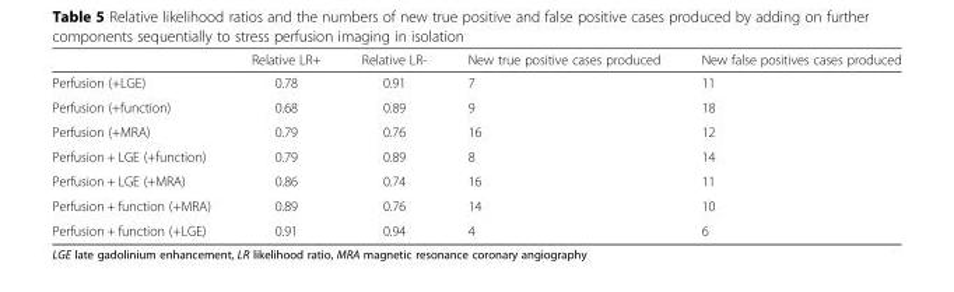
<table><thead><tr><td></td><td>Relative LR+</td><td>Relative LR-</td><td>New true positive cases produced</td><td>New false positives cases produced</td></tr></thead><tbody><tr><td>Perfusion (+LGE)</td><td>0.78</td><td>0.91</td><td>7</td><td>11</td></tr><tr><td>Perfusion (+function)</td><td>0.68</td><td>0.89</td><td>9</td><td>18</td></tr><tr><td>Perfusion (+MRA)</td><td>0.79</td><td>0.76</td><td>16</td><td>12</td></tr><tr><td>Perfusion + LGE (+function)</td><td>0.79</td><td>0.89</td><td>8</td><td>14</td></tr><tr><td>Perfusion + LGE (+MRA)</td><td>0.86</td><td>0.74</td><td>16</td><td>11</td></tr><tr><td>Perfusion + function (+MRA)</td><td>0.89</td><td>0.76</td><td>14</td><td>10</td></tr><tr><td>Perfusion + function (+LGE)</td><td>0.91</td><td>0.94</td><td>4</td><td>6</td></tr></tbody></table>